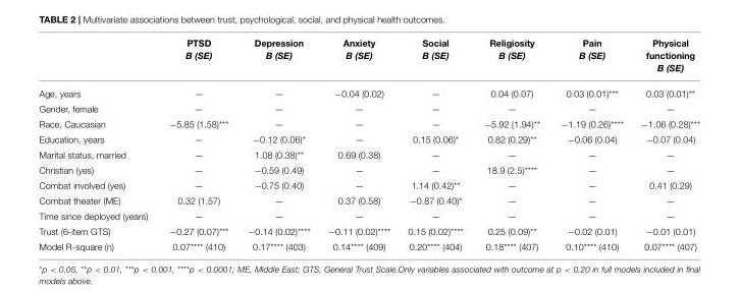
<table><thead><tr><td></td><td>PTSD B (SE)</td><td>Depression B (SE)</td><td>Anxiety B (SE)</td><td>Social B (SE)</td><td>Religiosity B (SE)</td><td>Pain B (SE)</td><td>Physical functioning B (SE)</td></tr></thead><tbody><tr><td>Age, years</td><td>—</td><td>—</td><td>−0.04 (0.02)</td><td>—</td><td>0.04 (0.07)</td><td>0.03 (0.01)***</td><td>0.03 (0.01)**</td></tr><tr><td>Gender, female</td><td>—</td><td>—</td><td>—</td><td>—</td><td>—</td><td>—</td><td>—</td></tr><tr><td>Race, Caucasian</td><td>−5.85 (1.58)***</td><td>—</td><td>—</td><td>—</td><td>−5.92 (1.94)**</td><td>−1.19 (0.26)****</td><td>−1.06 (0.28)***</td></tr><tr><td>Education, years</td><td>—</td><td>−0.12 (0.06)*</td><td>—</td><td>0.15 (0.06)*</td><td>0.82 (0.29)**</td><td>−0.06 (0.04)</td><td>−0.07 (0.04)</td></tr><tr><td>Marital status, married</td><td>—</td><td>1.08 (0.38)**</td><td>0.69 (0.38)</td><td>—</td><td>—</td><td>—</td><td>—</td></tr><tr><td>Christian (yes)</td><td>—</td><td>−0.59 (0.49)</td><td>—</td><td>—</td><td>18.9 (2.5)****</td><td>—</td><td>—</td></tr><tr><td>Combat involved (yes)</td><td>—</td><td>−0.75 (0.40)</td><td>—</td><td>1.14 (0.42)**</td><td>—</td><td>—</td><td>0.41 (0.29)</td></tr><tr><td>Combat theater (ME)</td><td>0.32 (1.57)</td><td>—</td><td>0.37 (0.58)</td><td>−0.87 (0.40)*</td><td>—</td><td>—</td><td>—</td></tr><tr><td>Time since deployed (years)</td><td>—</td><td>—</td><td>—</td><td>—</td><td>—</td><td>—</td><td>—</td></tr><tr><td>Trust (6-item GTS)</td><td>−0.27 (0.07)***</td><td>−0.14 (0.02)****</td><td>−0.11 (0.02)****</td><td>0.15 (0.02)****</td><td>0.25 (0.09)**</td><td>−0.02 (0.01)</td><td>−0.01 (0.01)</td></tr><tr><td>Model R-square (n)</td><td>0.07**** (410)</td><td>0.17**** (403)</td><td>0.14**** (409)</td><td>0.20**** (404)</td><td>0.18**** (407)</td><td>0.10**** (410)</td><td>0.07**** (407)</td></tr></tbody></table>